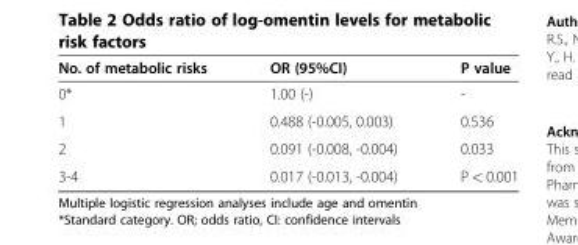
<table><thead><tr><td>No. of metabolic risks</td><td>OR (95%CI)</td><td>P value</td></tr></thead><tbody><tr><td>0*</td><td>1.00 (-)</td><td>-</td></tr><tr><td>1</td><td>0.488 (-0.005, 0.003)</td><td>0.536</td></tr><tr><td>2</td><td>0.091 (-0.008, -0.004)</td><td>0.033</td></tr><tr><td>3-4</td><td>0.017 (-0.013, -0.004)</td><td>P &lt; 0.001</td></tr></tbody></table>